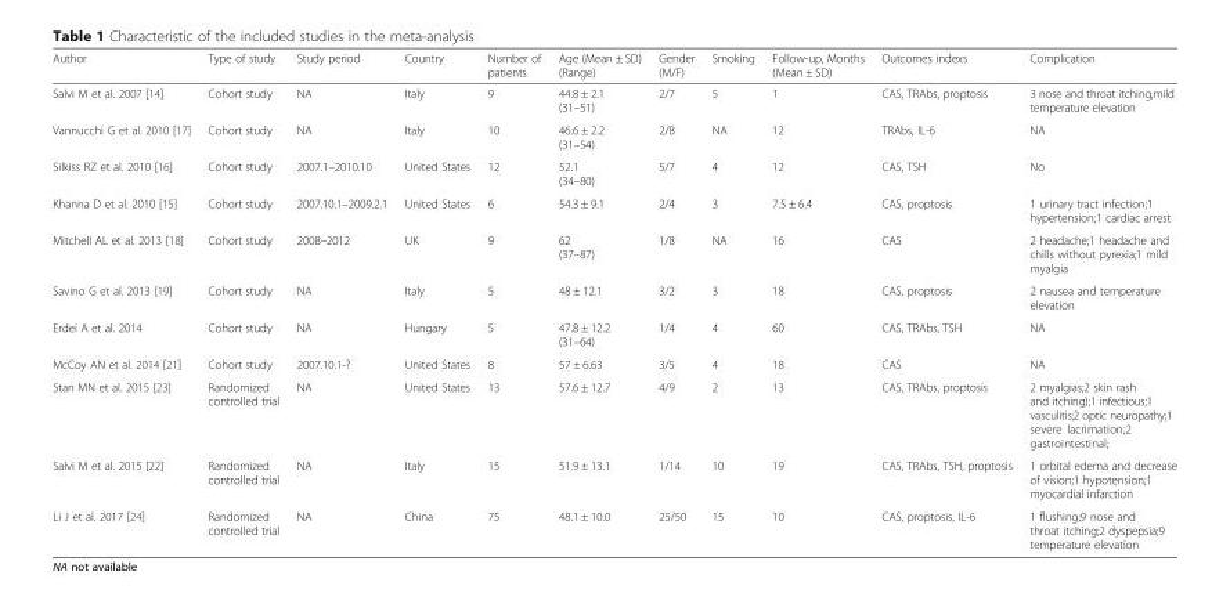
<table><thead><tr><td>Author</td><td>Type of study</td><td>Study period</td><td>Country</td><td>Number of patients</td><td>Age (Mean ± SD) (Range)</td><td>Gender (M/F)</td><td>Smoking</td><td>Follow-up, Months (Mean ± SD)</td><td>Outcomes indexs</td><td>Complication</td></tr></thead><tbody><tr><td>Salvi M et al. 2007 [14]</td><td>Cohort study</td><td>NA</td><td>Italy</td><td>9</td><td>44.8 ± 2.1 (31–51)</td><td>2/7</td><td>5</td><td>1</td><td>CAS, TRAbs, proptosis</td><td>3 nose and throat itching,mild temperature elevation</td></tr><tr><td>Vannucchi G et al. 2010 [17]</td><td>Cohort study</td><td>NA</td><td>Italy</td><td>10</td><td>46.6 ± 2.2 (31–54)</td><td>2/8</td><td>NA</td><td>12</td><td>TRAbs, IL-6</td><td>NA</td></tr><tr><td>Silkiss RZ et al. 2010 [16]</td><td>Cohort study</td><td>2007.1–2010.10</td><td>United States</td><td>12</td><td>52.1 (34–80)</td><td>5/7</td><td>4</td><td>12</td><td>CAS, TSH</td><td>No</td></tr><tr><td>Khanna D et al. 2010 [15]</td><td>Cohort study</td><td>2007.10.1–2009.2.1</td><td>United States</td><td>6</td><td>54.3 ± 9.1</td><td>2/4</td><td>3</td><td>7.5 ± 6.4</td><td>CAS, proptosis</td><td>1 urinary tract infection;1 hypertension;1 cardiac arrest</td></tr><tr><td>Mitchell AL et al. 2013 [18]</td><td>Cohort study</td><td>2008–2012</td><td>UK</td><td>9</td><td>62 (37–87)</td><td>1/8</td><td>NA</td><td>16</td><td>CAS</td><td>2 headache;1 headache and chills without pyrexia;1 mild myalgia</td></tr><tr><td>Savino G et al. 2013 [19]</td><td>Cohort study</td><td>NA</td><td>Italy</td><td>5</td><td>48 ± 12.1</td><td>3/2</td><td>3</td><td>18</td><td>CAS, proptosis</td><td>2 nausea and temperature elevation</td></tr><tr><td>Erdei A et al. 2014</td><td>Cohort study</td><td>NA</td><td>Hungary</td><td>5</td><td>47.8 ± 12.2 (31–64)</td><td>1/4</td><td>4</td><td>60</td><td>CAS, TRAbs, TSH</td><td>NA</td></tr><tr><td>McCoy AN et al. 2014 [21]</td><td>Cohort study</td><td>2007.10.1-?</td><td>United States</td><td>8</td><td>57 ± 6.63</td><td>3/5</td><td>4</td><td>18</td><td>CAS</td><td>NA</td></tr><tr><td>Stan MN et al. 2015 [23]</td><td>Randomized controlled trial</td><td>NA</td><td>United States</td><td>13</td><td>57.6 ± 12.7</td><td>4/9</td><td>2</td><td>13</td><td>CAS, TRAbs, proptosis</td><td>2 myalgias;2 skin rash and itching);1 infectious;1 vasculitis;2 optic neuropathy;1 severe lacrimation;2 gastrointestinal;</td></tr><tr><td>Salvi M et al. 2015 [22]</td><td>Randomized controlled trial</td><td>NA</td><td>Italy</td><td>15</td><td>51.9 ± 13.1</td><td>1/14</td><td>10</td><td>19</td><td>CAS, TRAbs, TSH, proptosis</td><td>1 orbital edema and decrease of vision;1 hypotension;1 myocardial infarction</td></tr><tr><td>Li J et al. 2017 [24]</td><td>Randomized controlled trial</td><td>NA</td><td>China</td><td>75</td><td>48.1 ± 10.0</td><td>25/50</td><td>15</td><td>10</td><td>CAS, proptosis, IL-6</td><td>1 flushing;9 nose and throat itching;2 dyspepsia;9 temperature elevation</td></tr></tbody></table>